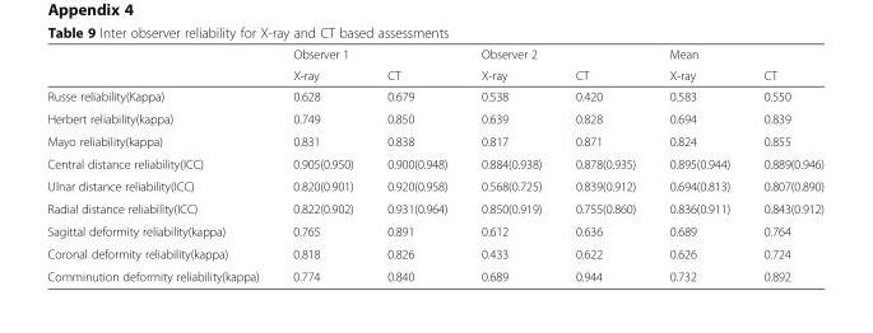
<table><thead><tr><td rowspan="2"></td><td rowspan="2">Observer 1 X-ray</td><td rowspan="2">CT</td><td rowspan="2">Observer 2 X-ray</td><td rowspan="2">CT</td><td rowspan="2">Mean X-ray</td><td rowspan="2">CT</td></tr><tr></tr></thead><tbody><tr><td>Russe reliability(Kappa)</td><td>0.628</td><td>0.679</td><td>0.538</td><td>0.420</td><td>0.583</td><td>0.550</td></tr><tr><td>Herbert reliability(kappa)</td><td>0.749</td><td>0.850</td><td>0.639</td><td>0.828</td><td>0.694</td><td>0.839</td></tr><tr><td>Mayo reliability(kappa)</td><td>0.831</td><td>0.838</td><td>0.817</td><td>0.871</td><td>0.824</td><td>0.855</td></tr><tr><td>Central distance reliability(ICC)</td><td>0.905(0.950)</td><td>0.900(0.948)</td><td>0.884(0.938)</td><td>0.878(0.935)</td><td>0.895(0.944)</td><td>0.889(0.946)</td></tr><tr><td>Ulnar distance reliability(ICC)</td><td>0.820(0.901)</td><td>0.920(0.958)</td><td>0.568(0.725)</td><td>0.839(0.912)</td><td>0.694(0.813)</td><td>0.807(0.890)</td></tr><tr><td>Radial distance reliability(ICC)</td><td>0.822(0.902)</td><td>0.931(0.964)</td><td>0.850(0.919)</td><td>0.755(0.860)</td><td>0.836(0.911)</td><td>0.843(0.912)</td></tr><tr><td>Sagittal deformity reliability(kappa)</td><td>0.765</td><td>0.891</td><td>0.612</td><td>0.636</td><td>0.689</td><td>0.764</td></tr><tr><td>Coronal deformity reliability(kappa)</td><td>0.818</td><td>0.826</td><td>0.433</td><td>0.622</td><td>0.626</td><td>0.724</td></tr><tr><td>Comminution deformity reliability(kappa)</td><td>0.774</td><td>0.840</td><td>0.689</td><td>0.944</td><td>0.732</td><td>0.892</td></tr></tbody></table>